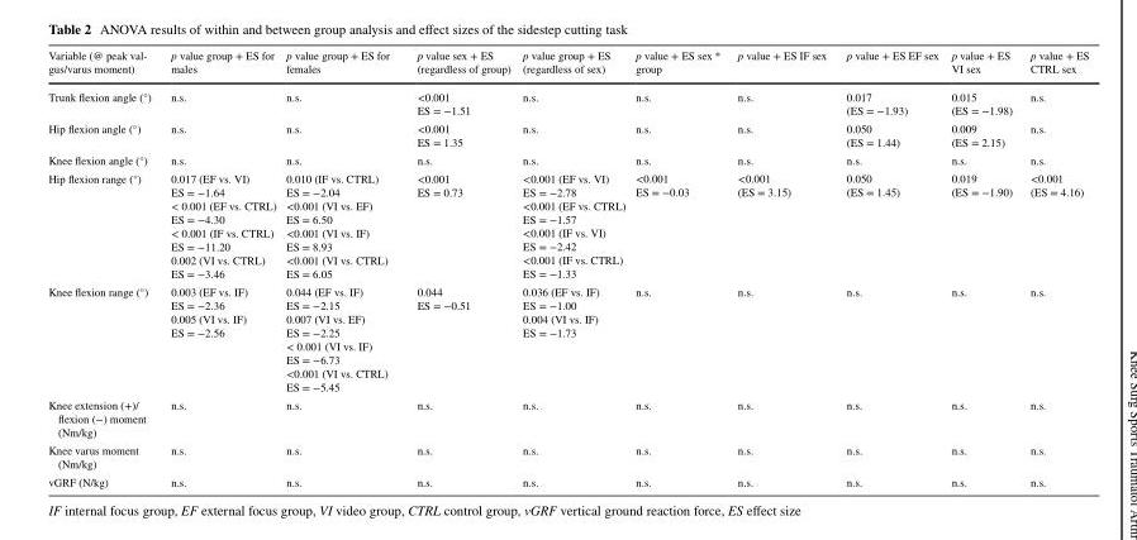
<table><thead><tr><td>Variable (@ peak val- gus/varus moment)</td><td>p value group + ES for males</td><td>p value group + ES for females</td><td>p value sex + ES (regardless of group)</td><td>p value group + ES (regardless of sex)</td><td>p value + ES sex * group</td><td>p value + ES IF sex</td><td>p value + ES EF sex</td><td>p value + ES VI sex</td><td>p value + ES CTRL sex</td></tr></thead><tbody><tr><td>Trunk flexion angle (°)</td><td>n.s.</td><td>n.s.</td><td>&lt;0.001 ES = −1.51</td><td>n.s.</td><td>n.s.</td><td>n.s.</td><td>0.017 (ES = −1.93)</td><td>0.015 (ES = −1.98)</td><td>n.s.</td></tr><tr><td>Hip flexion angle (°)</td><td>n.s.</td><td>n.s.</td><td>&lt;0.001 ES = 1.35</td><td>n.s.</td><td>n.s.</td><td>n.s.</td><td>0.050 (ES = 1.44)</td><td>0.009 (ES = 2.15)</td><td>n.s.</td></tr><tr><td>Knee flexion angle (°)</td><td>n.s.</td><td>n.s.</td><td>n.s.</td><td>n.s.</td><td>n.s.</td><td>n.s.</td><td>n.s.</td><td>n.s.</td><td>n.s.</td></tr><tr><td>Hip flexion range (°)</td><td>0.017 (EF vs. VI) ES = −1.64 &lt; 0.001 (EF vs. CTRL) ES = −4.30 &lt; 0.001 (IF vs. CTRL) ES = −11.20 0.002 (VI vs. CTRL) ES = −3.46</td><td>0.010 (IF vs. CTRL) ES = −2.04 &lt;0.001 (VI vs. EF) ES = 6.50 &lt;0.001 (VI vs. IF) ES = 8.93 &lt;0.001 (VI vs. CTRL) ES = 6.05</td><td>&lt;0.001 ES = 0.73</td><td>&lt;0.001 (EF vs. VI) ES = −2.78 &lt;0.001 (EF vs. CTRL) ES = −1.57 &lt;0.001 (IF vs. VI) ES = −2.42 &lt;0.001 (IF vs. CTRL) ES = −1.33</td><td>&lt;0.001 ES = −0.03</td><td>&lt;0.001 (ES = 3.15)</td><td>0.050 (ES = 1.45)</td><td>0.019 (ES = −1.90)</td><td>&lt;0.001 (ES = 4.16)</td></tr><tr><td>Knee flexion range (°)</td><td>0.003 (EF vs. IF) ES = −2.36 0.005 (VI vs. IF) ES = −2.56</td><td>0.044 (EF vs. IF) ES = −2.15 0.007 (VI vs. EF) ES = −2.25 &lt; 0.001 (VI vs. IF) ES = −6.73 &lt;0.001 (VI vs. CTRL) ES = −5.45</td><td>0.044 ES = −0.51</td><td>0.036 (EF vs. IF) ES = −1.00 0.004 (VI vs. IF) ES = −1.73</td><td>n.s.</td><td>n.s.</td><td>n.s.</td><td>n.s.</td><td>n.s.</td></tr><tr><td>Knee extension (+)/ flexion (−) moment (Nm/kg)</td><td>n.s.</td><td>n.s.</td><td>n.s.</td><td>n.s.</td><td>n.s.</td><td>n.s.</td><td>n.s.</td><td>n.s.</td><td>n.s.</td></tr><tr><td>Knee varus moment (Nm/kg)</td><td>n.s.</td><td>n.s.</td><td>n.s.</td><td>n.s.</td><td>n.s.</td><td>n.s.</td><td>n.s.</td><td>n.s.</td><td>n.s.</td></tr><tr><td>vGRF (N/kg)</td><td>n.s.</td><td>n.s.</td><td>n.s.</td><td>n.s.</td><td>n.s.</td><td>n.s.</td><td>n.s.</td><td>n.s.</td><td>n.s.</td></tr></tbody></table>